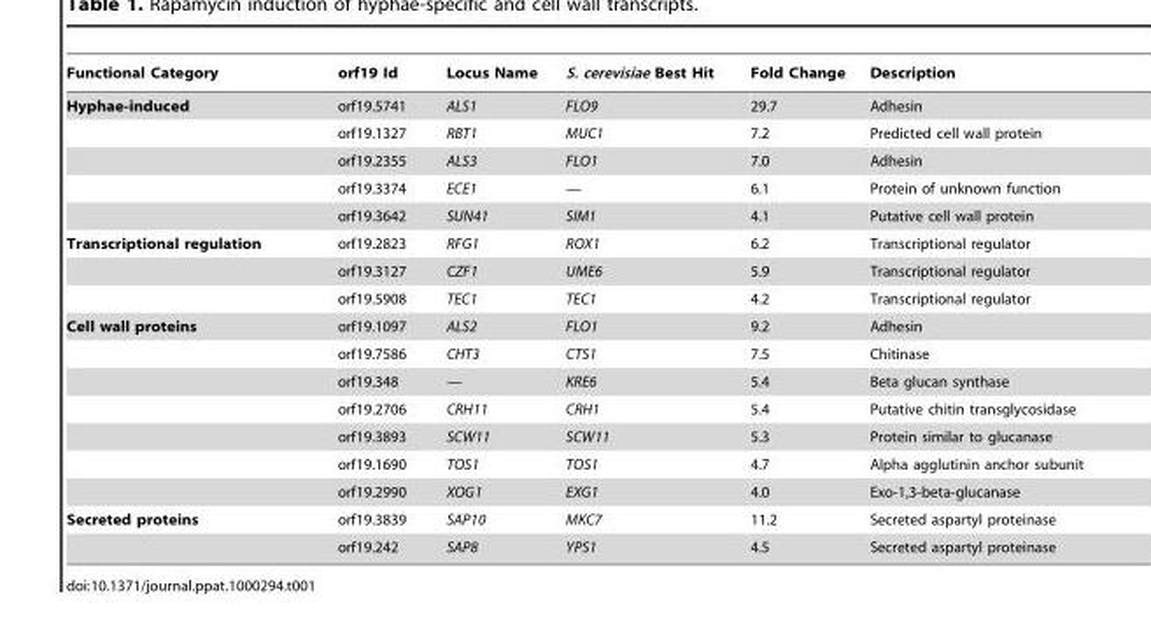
<table><thead><tr><td>Functional Category</td><td>orf19 Id</td><td>Locus Name</td><td>S. cerevisiae Best Hit</td><td>Fold Change</td><td>Description</td></tr></thead><tbody><tr><td rowspan="5">Hyphae-induced</td><td>orf19.5741</td><td>ALS1</td><td>FLO9</td><td>29.7</td><td>Adhesin</td></tr><tr><td>orf19.1327</td><td>RBT1</td><td>MUC1</td><td>7.2</td><td>Predicted cell wall protein</td></tr><tr><td>orf19.2355</td><td>ALS3</td><td>FLO1</td><td>7.0</td><td>Adhesin</td></tr><tr><td>orf19.3374</td><td>ECE1</td><td>—</td><td>6.1</td><td>Protein of unknown function</td></tr><tr><td>orf19.3642</td><td>SUN41</td><td>SIM1</td><td>4.1</td><td>Putative cell wall protein</td></tr><tr><td rowspan="3">Transcriptional regulation</td><td>orf19.2823</td><td>RFG1</td><td>ROX1</td><td>6.2</td><td>Transcriptional regulator</td></tr><tr><td>orf19.3127</td><td>CZF1</td><td>UME6</td><td>5.9</td><td>Transcriptional regulator</td></tr><tr><td>orf19.5908</td><td>TEC1</td><td>TEC1</td><td>4.2</td><td>Transcriptional regulator</td></tr><tr><td rowspan="7">Cell wall proteins</td><td>orf19.1097</td><td>ALS2</td><td>FLO1</td><td>9.2</td><td>Adhesin</td></tr><tr><td>orf19.7586</td><td>CHT3</td><td>CTS1</td><td>7.5</td><td>Chitinase</td></tr><tr><td>orf19.348</td><td>—</td><td>KRE6</td><td>5.4</td><td>Beta glucan synthase</td></tr><tr><td>orf19.2706</td><td>CRH11</td><td>CRH1</td><td>5.4</td><td>Putative chitin transglycosidase</td></tr><tr><td>orf19.3893</td><td>SCW11</td><td>SCW11</td><td>5.3</td><td>Protein similar to glucanase</td></tr><tr><td>orf19.1690</td><td>TOS1</td><td>TOS1</td><td>4.7</td><td>Alpha agglutinin anchor subunit</td></tr><tr><td>orf19.2990</td><td>XOG1</td><td>EXG1</td><td>4.0</td><td>Exo-1,3-beta-glucanase</td></tr><tr><td rowspan="2">Secreted proteins</td><td>orf19.3839</td><td>SAP10</td><td>MKC7</td><td>11.2</td><td>Secreted aspartyl proteinase</td></tr><tr><td>orf19.242</td><td>SAP8</td><td>YPS1</td><td>4.5</td><td>Secreted aspartyl proteinase</td></tr></tbody></table>